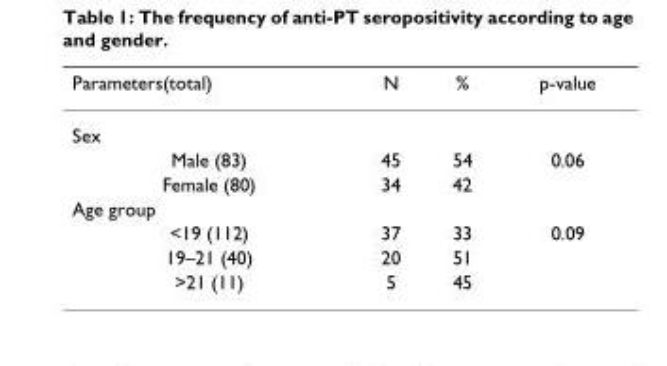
<table><thead><tr><td>Parameters(total)</td><td>N</td><td>%</td><td>p-value</td></tr></thead><tbody><tr><td colspan="4">Sex</td></tr><tr><td>Male (83)</td><td>45</td><td>54</td><td>0.06</td></tr><tr><td>Female (80)</td><td>34</td><td>42</td><td></td></tr><tr><td colspan="4">Age group</td></tr><tr><td>&lt;19 (112)</td><td>37</td><td>33</td><td>0.09</td></tr><tr><td>19–21 (40)</td><td>20</td><td>51</td><td></td></tr><tr><td>&gt;21 (11)</td><td>5</td><td>45</td><td></td></tr></tbody></table>